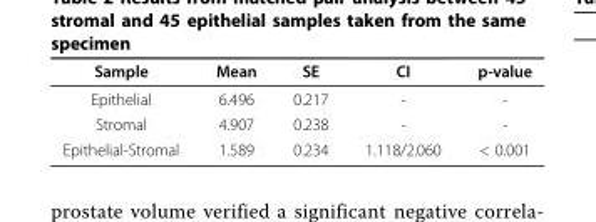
<table><thead><tr><td>Sample</td><td>Mean</td><td>SE</td><td>CI</td><td>p-value</td></tr></thead><tbody><tr><td>Epithelial</td><td>6.496</td><td>0.217</td><td>-</td><td>-</td></tr><tr><td>Stromal</td><td>4.907</td><td>0.238</td><td>-</td><td>-</td></tr><tr><td>Epithelial-Stromal</td><td>1.589</td><td>0.234</td><td>1.118/2.060</td><td>&lt; 0.001</td></tr></tbody></table>